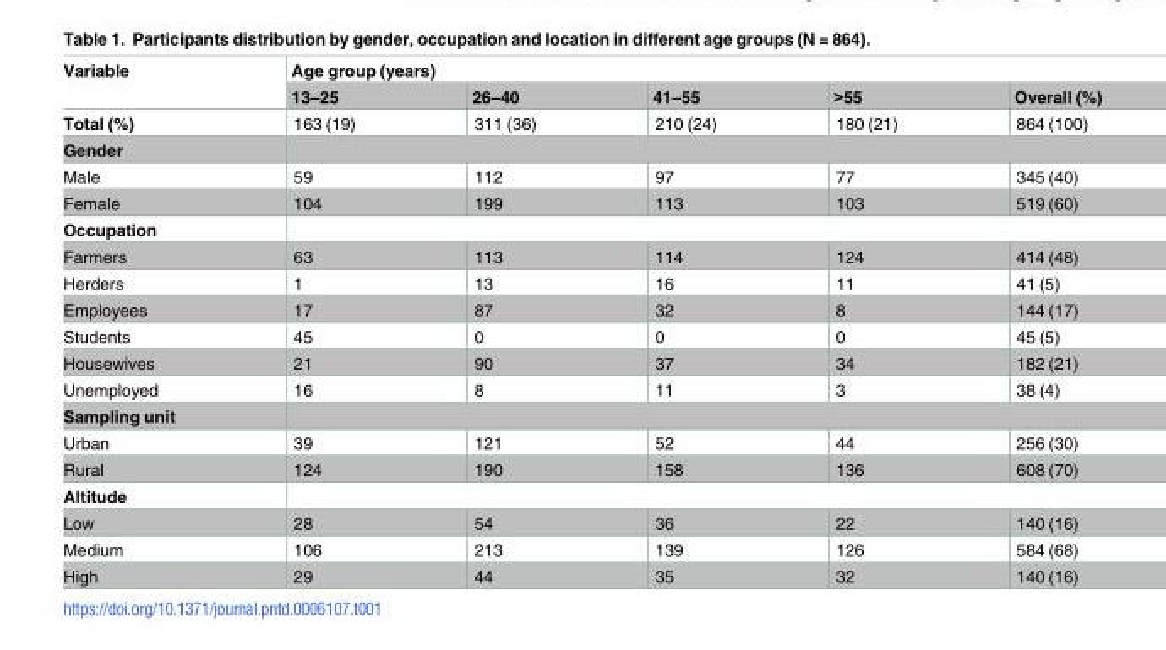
<table><thead><tr><td rowspan="2">Variable</td><td colspan="5">Age group (years)</td></tr><tr><td>13–25</td><td>26–40</td><td>41–55</td><td>&gt;55</td><td>Overall (%)</td></tr></thead><tbody><tr><td>Total (%)</td><td>163 (19)</td><td>311 (36)</td><td>210 (24)</td><td>180 (21)</td><td>864 (100)</td></tr><tr><td colspan="6">Gender</td></tr><tr><td>Male</td><td>59</td><td>112</td><td>97</td><td>77</td><td>345 (40)</td></tr><tr><td>Female</td><td>104</td><td>199</td><td>113</td><td>103</td><td>519 (60)</td></tr><tr><td colspan="6">Occupation</td></tr><tr><td>Farmers</td><td>63</td><td>113</td><td>114</td><td>124</td><td>414 (48)</td></tr><tr><td>Herders</td><td>1</td><td>13</td><td>16</td><td>11</td><td>41 (5)</td></tr><tr><td>Employees</td><td>17</td><td>87</td><td>32</td><td>8</td><td>144 (17)</td></tr><tr><td>Students</td><td>45</td><td>0</td><td>0</td><td>0</td><td>45 (5)</td></tr><tr><td>Housewives</td><td>21</td><td>90</td><td>37</td><td>34</td><td>182 (21)</td></tr><tr><td>Unemployed</td><td>16</td><td>8</td><td>11</td><td>3</td><td>38 (4)</td></tr><tr><td colspan="6">Sampling unit</td></tr><tr><td>Urban</td><td>39</td><td>121</td><td>52</td><td>44</td><td>256 (30)</td></tr><tr><td>Rural</td><td>124</td><td>190</td><td>158</td><td>136</td><td>608 (70)</td></tr><tr><td colspan="6">Altitude</td></tr><tr><td>Low</td><td>28</td><td>54</td><td>36</td><td>22</td><td>140 (16)</td></tr><tr><td>Medium</td><td>106</td><td>213</td><td>139</td><td>126</td><td>584 (68)</td></tr><tr><td>High</td><td>29</td><td>44</td><td>35</td><td>32</td><td>140 (16)</td></tr></tbody></table>